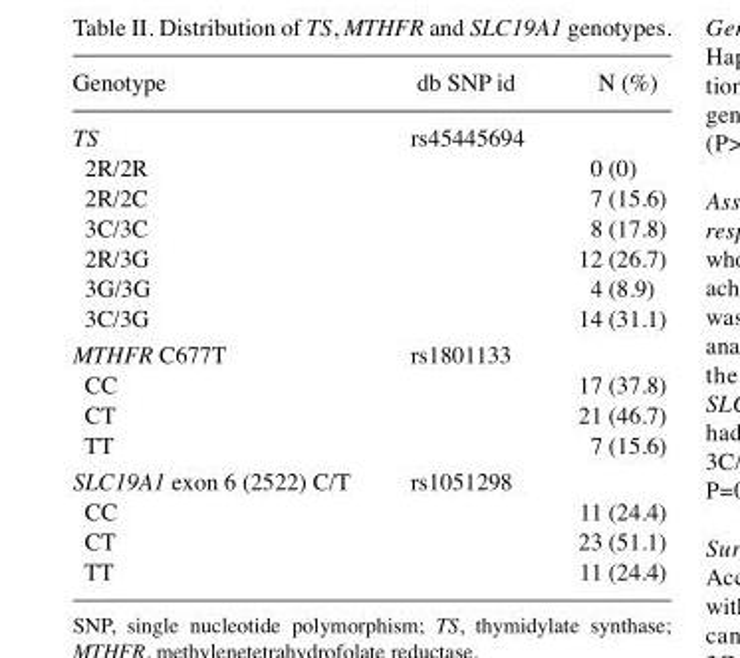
<table><thead><tr><td>Genotype</td><td>db SNP id</td><td>N (%)</td></tr></thead><tbody><tr><td>TS</td><td>rs45445694</td><td></td></tr><tr><td>2R/2R</td><td></td><td>0 (0)</td></tr><tr><td>2R/2C</td><td></td><td>7 (15.6)</td></tr><tr><td>3C/3C</td><td></td><td>8 (17.8)</td></tr><tr><td>2R/3G</td><td></td><td>12 (26.7)</td></tr><tr><td>3G/3G</td><td></td><td>4 (8.9)</td></tr><tr><td>3C/3G</td><td></td><td>14 (31.1)</td></tr><tr><td>MTHFR C677T</td><td>rs1801133</td><td></td></tr><tr><td>CC</td><td></td><td>17 (37.8)</td></tr><tr><td>CT</td><td></td><td>21 (46.7)</td></tr><tr><td>TT</td><td></td><td>7 (15.6)</td></tr><tr><td>SLC19A1 exon 6 (2522) C/T</td><td>rs1051298</td><td></td></tr><tr><td>CC</td><td></td><td>11 (24.4)</td></tr><tr><td>CT</td><td></td><td>23 (51.1)</td></tr><tr><td>TT</td><td></td><td>11 (24.4)</td></tr></tbody></table>